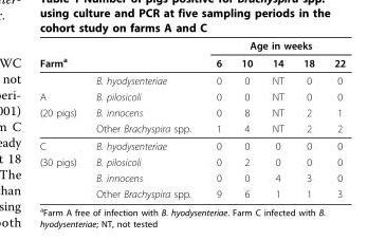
<table><thead><tr><td rowspan="2">Farm<sup>a</sup></td><td rowspan="2"></td><td colspan="5">Age in weeks</td></tr><tr><td>6</td><td>10</td><td>14</td><td>18</td><td>22</td></tr></thead><tbody><tr><td></td><td>B. hyodysenteriae</td><td>0</td><td>0</td><td>NT</td><td>0</td><td>0</td></tr><tr><td>A</td><td>B. pilosicoli</td><td>0</td><td>0</td><td>NT</td><td>0</td><td>0</td></tr><tr><td rowspan="2">(20 pigs)</td><td>B. innocens</td><td>0</td><td>8</td><td>NT</td><td>2</td><td>1</td></tr><tr><td>Other Brachyspira spp.</td><td>1</td><td>4</td><td>NT</td><td>2</td><td>2</td></tr><tr><td>C</td><td>B. hyodysenteriae</td><td>0</td><td>0</td><td>0</td><td>0</td><td>0</td></tr><tr><td rowspan="3">(30 pigs)</td><td>B. pilosicoli</td><td>0</td><td>2</td><td>0</td><td>0</td><td>0</td></tr><tr><td>B. innocens</td><td>0</td><td>0</td><td>4</td><td>3</td><td>0</td></tr><tr><td>Other Brachyspira spp.</td><td>9</td><td>6</td><td>1</td><td>1</td><td>3</td></tr></tbody></table>